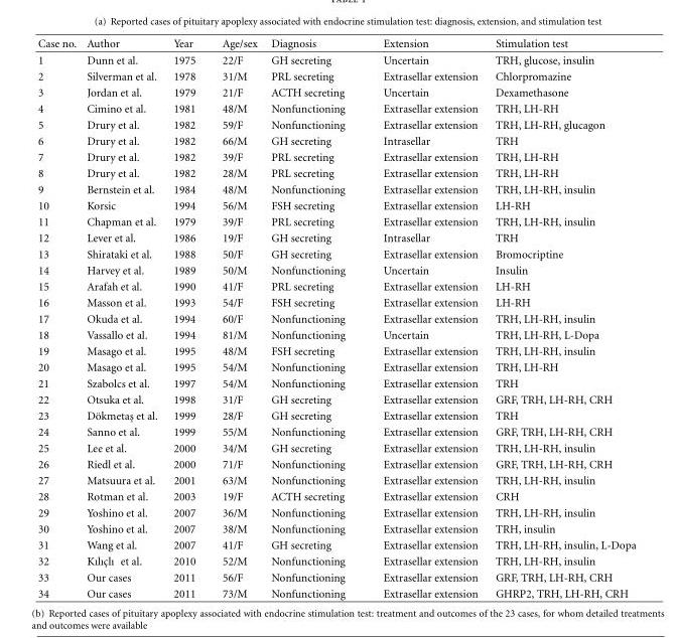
<table><thead><tr><td>Case no.</td><td>Author</td><td>Year</td><td>Age/sex</td><td>Diagnosis</td><td>Extension</td><td>Stimulation test</td></tr></thead><tbody><tr><td>1</td><td>Dunn et al.</td><td>1975</td><td>22/F</td><td>GH secreting</td><td>Uncertain</td><td>TRH, glucose, insulin</td></tr><tr><td>2</td><td>Silverman et al.</td><td>1978</td><td>31/M</td><td>PRL secreting</td><td>Extrasellar extension</td><td>Chlorpromazine</td></tr><tr><td>3</td><td>Jordan et al.</td><td>1979</td><td>21/F</td><td>ACTH secreting</td><td>Uncertain</td><td>Dexamethasone</td></tr><tr><td>4</td><td>Cimino et al.</td><td>1981</td><td>48/M</td><td>Nonfunctioning</td><td>Extrasellar extension</td><td>TRH, LH-RH</td></tr><tr><td>5</td><td>Drury et al.</td><td>1982</td><td>59/F</td><td>Nonfunctioning</td><td>Extrasellar extension</td><td>TRH, LH-RH, glucagon</td></tr><tr><td>6</td><td>Drury et al.</td><td>1982</td><td>66/M</td><td>GH secreting</td><td>Intrasellar</td><td>TRH</td></tr><tr><td>7</td><td>Drury et al.</td><td>1982</td><td>39/F</td><td>PRL secreting</td><td>Extrasellar extension</td><td>TRH, LH-RH</td></tr><tr><td>8</td><td>Drury et al.</td><td>1982</td><td>28/M</td><td>PRL secreting</td><td>Extrasellar extension</td><td>TRH, LH-RH</td></tr><tr><td>9</td><td>Bernstein et al.</td><td>1984</td><td>48/M</td><td>Nonfunctioning</td><td>Extrasellar extension</td><td>TRH, LH-RH, insulin</td></tr><tr><td>10</td><td>Korsic</td><td>1994</td><td>56/M</td><td>FSH secreting</td><td>Extrasellar extension</td><td>LH-RH</td></tr><tr><td>11</td><td>Chapman et al.</td><td>1979</td><td>39/F</td><td>PRL secreting</td><td>Extrasellar extension</td><td>TRH, LH-RH, insulin</td></tr><tr><td>12</td><td>Lever et al.</td><td>1986</td><td>19/F</td><td>GH secreting</td><td>Intrasellar</td><td>TRH</td></tr><tr><td>13</td><td>Shirataki et al.</td><td>1988</td><td>50/F</td><td>GH secreting</td><td>Extrasellar extension</td><td>Bromocriptine</td></tr><tr><td>14</td><td>Harvey et al.</td><td>1989</td><td>50/M</td><td>Nonfunctioning</td><td>Uncertain</td><td>Insulin</td></tr><tr><td>15</td><td>Arafah et al.</td><td>1990</td><td>41/F</td><td>PRL secreting</td><td>Extrasellar extension</td><td>LH-RH</td></tr><tr><td>16</td><td>Masson et al.</td><td>1993</td><td>54/F</td><td>FSH secreting</td><td>Extrasellar extension</td><td>LH-RH</td></tr><tr><td>17</td><td>Okuda et al.</td><td>1994</td><td>60/F</td><td>Nonfunctioning</td><td>Extrasellar extension</td><td>TRH, LH-RH, insulin</td></tr><tr><td>18</td><td>Vassallo et al.</td><td>1994</td><td>81/M</td><td>Nonfunctioning</td><td>Uncertain</td><td>TRH, LH-RH, L-Dopa</td></tr><tr><td>19</td><td>Masago et al.</td><td>1995</td><td>48/M</td><td>FSH secreting</td><td>Extrasellar extension</td><td>TRH, LH-RH, insulin</td></tr><tr><td>20</td><td>Masago et al.</td><td>1995</td><td>54/M</td><td>Nonfunctioning</td><td>Extrasellar extension</td><td>TRH, LH-RH</td></tr><tr><td>21</td><td>Szabolcs et al.</td><td>1997</td><td>54/M</td><td>Nonfunctioning</td><td>Extrasellar extension</td><td>TRH</td></tr><tr><td>22</td><td>Otsuka et al.</td><td>1998</td><td>31/F</td><td>GH secreting</td><td>Extrasellar extension</td><td>GRF, TRH, LH-RH, CRH</td></tr><tr><td>23</td><td>D¨okmetas¸ et al.</td><td>1999</td><td>28/F</td><td>GH secreting</td><td>Extrasellar extension</td><td>TRH</td></tr><tr><td>24</td><td>Sanno et al.</td><td>1999</td><td>55/M</td><td>Nonfunctioning</td><td>Extrasellar extension</td><td>GRF, TRH, LH-RH, CRH</td></tr><tr><td>25</td><td>Lee et al.</td><td>2000</td><td>34/M</td><td>GH secreting</td><td>Extrasellar extension</td><td>TRH, LH-RH, insulin</td></tr><tr><td>26</td><td>Riedl et al.</td><td>2000</td><td>71/F</td><td>Nonfunctioning</td><td>Extrasellar extension</td><td>GRF, TRH, LH-RH, CRH</td></tr><tr><td>27</td><td>Matsuura et al.</td><td>2001</td><td>63/M</td><td>Nonfunctioning</td><td>Extrasellar extension</td><td>TRH, LH-RH, insulin</td></tr><tr><td>28</td><td>Rotman et al.</td><td>2003</td><td>19/F</td><td>ACTH secreting</td><td>Extrasellar extension</td><td>CRH</td></tr><tr><td>29</td><td>Yoshino et al.</td><td>2007</td><td>36/M</td><td>Nonfunctioning</td><td>Extrasellar extension</td><td>TRH, LH-RH, insulin</td></tr><tr><td>30</td><td>Yoshino et al.</td><td>2007</td><td>38/M</td><td>Nonfunctioning</td><td>Extrasellar extension</td><td>TRH, insulin</td></tr><tr><td>31</td><td>Wang et al.</td><td>2007</td><td>41/F</td><td>GH secreting</td><td>Extrasellar extension</td><td>TRH, LH-RH, insulin, L-Dopa</td></tr><tr><td>32</td><td>Kılıc¸lı et al.</td><td>2010</td><td>52/M</td><td>Nonfunctioning</td><td>Extrasellar extension</td><td>TRH, LH-RH, insulin</td></tr><tr><td>33</td><td>Our cases</td><td>2011</td><td>56/F</td><td>Nonfunctioning</td><td>Extrasellar extension</td><td>GRF, TRH, LH-RH, CRH</td></tr><tr><td>34</td><td>Our cases</td><td>2011</td><td>73/M</td><td>Nonfunctioning</td><td>Extrasellar extension</td><td>GHRP2, TRH, LH-RH, CRH</td></tr></tbody></table>